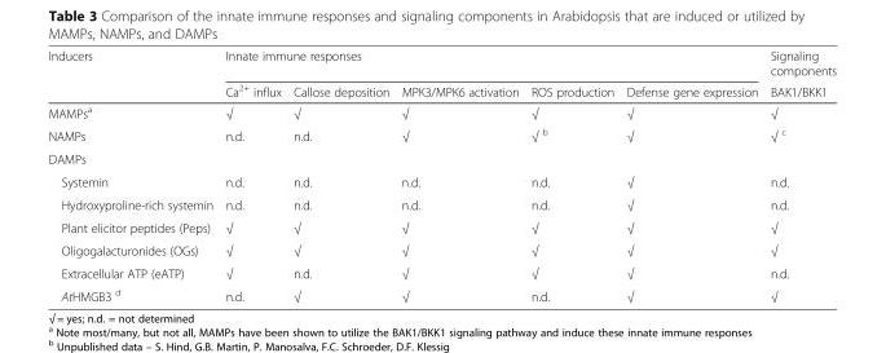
<table><thead><tr><td rowspan="2">Inducers</td><td colspan="5">Innate immune responses</td><td rowspan="2">Signaling components BAK1/BKK1</td></tr><tr><td>Ca<sup>2+</sup> influx</td><td>Callose deposition</td><td>MPK3/MPK6 activation</td><td>ROS production</td><td>Defense gene expression</td></tr></thead><tbody><tr><td>MAMPs<sup>a</sup></td><td>√</td><td>√</td><td>√</td><td>√</td><td>√</td><td>√</td></tr><tr><td>NAMPs</td><td>n.d.</td><td>n.d.</td><td>√</td><td>√ <sup>b</sup></td><td>√</td><td>√ <sup>c</sup></td></tr><tr><td colspan="7">DAMPs</td></tr><tr><td>Systemin</td><td>n.d.</td><td>n.d.</td><td>n.d.</td><td>n.d.</td><td>√</td><td>n.d.</td></tr><tr><td>Hydroxyproline-rich systemin</td><td>n.d.</td><td>n.d.</td><td>n.d.</td><td>n.d.</td><td>√</td><td>n.d.</td></tr><tr><td>Plant elicitor peptides (Peps)</td><td>√</td><td>√</td><td>√</td><td>√</td><td>√</td><td>√</td></tr><tr><td>Oligogalacturonides (OGs)</td><td>√</td><td>√</td><td>√</td><td>√</td><td>√</td><td>√</td></tr><tr><td>Extracellular ATP (eATP)</td><td>√</td><td>n.d.</td><td>√</td><td>√</td><td>√</td><td>n.d.</td></tr><tr><td>AtHMGB3 <sup>d</sup></td><td>n.d.</td><td>√</td><td>√</td><td>n.d.</td><td>√</td><td>√</td></tr></tbody></table>